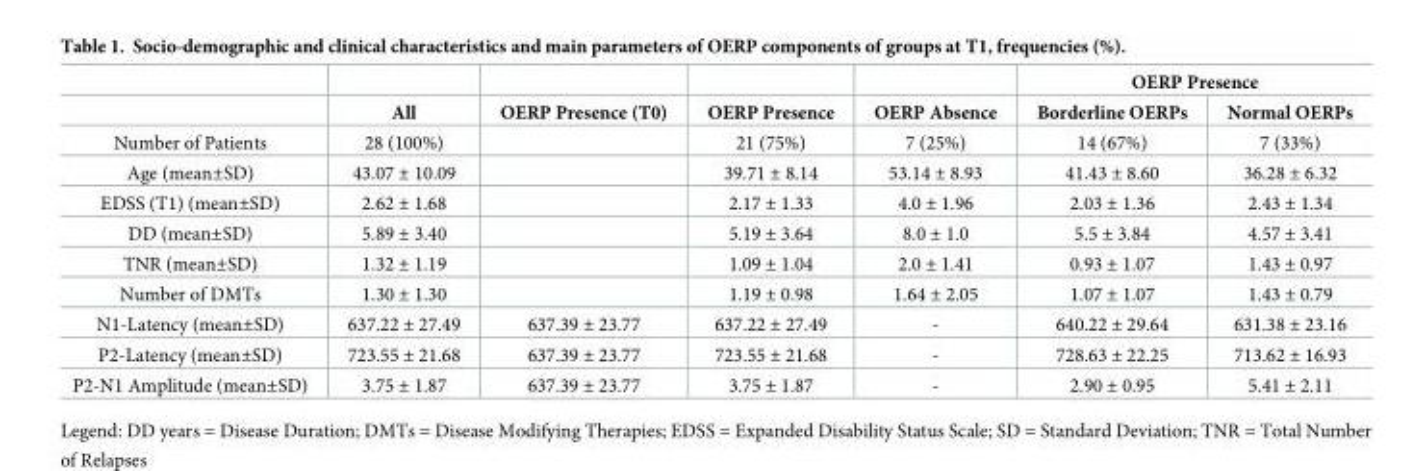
<table><thead><tr><td rowspan="2"></td><td rowspan="2">All</td><td rowspan="2">OERP Presence (T0)</td><td rowspan="2">OERP Presence</td><td rowspan="2">OERP Absence</td><td colspan="2">OERP Presence</td></tr><tr><td>Borderline OERPs</td><td>Normal OERPs</td></tr></thead><tbody><tr><td>Number of Patients</td><td>28 (100%)</td><td></td><td>21 (75%)</td><td>7 (25%)</td><td>14 (67%)</td><td>7 (33%)</td></tr><tr><td>Age (mean±SD)</td><td>43.07 ± 10.09</td><td></td><td>39.71 ± 8.14</td><td>53.14 ± 8.93</td><td>41.43 ± 8.60</td><td>36.28 ± 6.32</td></tr><tr><td>EDSS (T1) (mean±SD)</td><td>2.62 ± 1.68</td><td></td><td>2.17 ± 1.33</td><td>4.0 ± 1.96</td><td>2.03 ± 1.36</td><td>2.43 ± 1.34</td></tr><tr><td>DD (mean±SD)</td><td>5.89 ± 3.40</td><td></td><td>5.19 ± 3.64</td><td>8.0 ± 1.0</td><td>5.5 ± 3.84</td><td>4.57 ± 3.41</td></tr><tr><td>TNR (mean±SD)</td><td>1.32 ± 1.19</td><td></td><td>1.09 ± 1.04</td><td>2.0 ± 1.41</td><td>0.93 ± 1.07</td><td>1.43 ± 0.97</td></tr><tr><td>Number of DMTs</td><td>1.30 ± 1.30</td><td></td><td>1.19 ± 0.98</td><td>1.64 ± 2.05</td><td>1.07 ± 1.07</td><td>1.43 ± 0.79</td></tr><tr><td>N1-Latency (mean±SD)</td><td>637.22 ± 27.49</td><td>637.39 ± 23.77</td><td>637.22 ± 27.49</td><td>-</td><td>640.22 ± 29.64</td><td>631.38 ± 23.16</td></tr><tr><td>P2-Latency (mean±SD)</td><td>723.55 ± 21.68</td><td>637.39 ± 23.77</td><td>723.55 ± 21.68</td><td>-</td><td>728.63 ± 22.25</td><td>713.62 ± 16.93</td></tr><tr><td>P2-N1 Amplitude (mean±SD)</td><td>3.75 ± 1.87</td><td>637.39 ± 23.77</td><td>3.75 ± 1.87</td><td>-</td><td>2.90 ± 0.95</td><td>5.41 ± 2.11</td></tr></tbody></table>